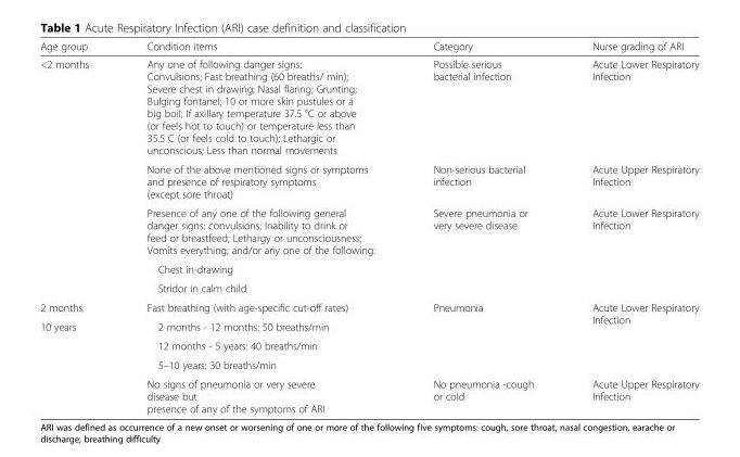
<table><thead><tr><td>Age group</td><td>Condition items</td><td>Category</td><td>Nurse grading of ARI</td></tr></thead><tbody><tr><td rowspan="5">&lt;2 months</td><td>Any one of following danger signs: Convulsions; Fast breathing (60 breaths/ min); Severe chest in drawing; Nasal flaring; Grunting; Bulging fontanel; 10 or more skin pustules or a big boil; If axillary temperature 37.5 °C or above (or feels hot to touch) or temperature less than 35.5 C (or feels cold to touch); Lethargic or unconscious; Less than normal movements</td><td>Possible serious bacterial infection</td><td>Acute Lower Respiratory Infection</td></tr><tr><td>None of the above mentioned signs or symptoms and presence of respiratory symptoms (except sore throat)</td><td>Non-serious bacterial infection</td><td>Acute Upper Respiratory Infection</td></tr><tr><td>Presence of any one of the following general danger signs: convulsions; Inability to drink or feed or breastfeed; Lethargy or unconsciousness; Vomits everything; and/or any one of the following:</td><td rowspan="3">Severe pneumonia or very severe disease</td><td rowspan="3">Acute Lower Respiratory Infection</td></tr><tr><td>Chest in-drawing</td></tr><tr><td>Stridor in calm child</td></tr><tr><td>2 months</td><td>Fast breathing (with age-specific cut-off rates)</td><td rowspan="4">Pneumonia</td><td rowspan="4">Acute Lower Respiratory Infection</td></tr><tr><td rowspan="4">10 years</td><td>2 months - 12 months: 50 breaths/min</td></tr><tr><td>12 months - 5 years: 40 breaths/min</td></tr><tr><td>5–10 years: 30 breaths/min</td></tr><tr><td>No signs of pneumonia or very severe disease but presence of any of the symptoms of ARI</td><td>No pneumonia -cough or cold</td><td>Acute Upper Respiratory Infection</td></tr></tbody></table>